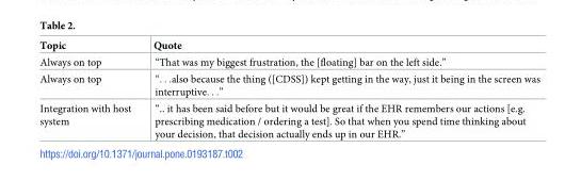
<table><thead><tr><td>Topic</td><td>Quote</td></tr></thead><tbody><tr><td>Always on top</td><td>“That was my biggest frustration, the [floating] bar on the left side.”</td></tr><tr><td>Always on top</td><td>“. . .also because the thing ([CDSS]) kept getting in the way, just it being in the screen was interruptive. . .”</td></tr><tr><td>Integration with host system</td><td>“‥ it has been said before but it would be great if the EHR remembers our actions [e.g. prescribing medication / ordering a test]. So that when you spend time thinking about your decision, that decision actually ends up in our EHR.”</td></tr></tbody></table>